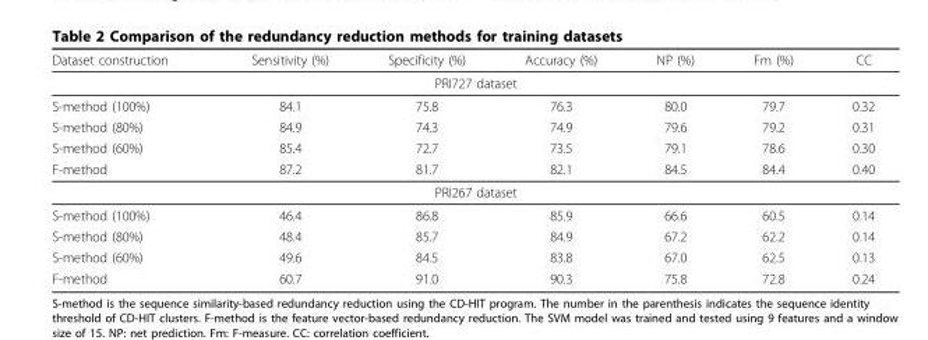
<table><thead><tr><td>Dataset construction</td><td>Sensitivity (%)</td><td>Specificity (%)</td><td>Accuracy (%)</td><td>NP (%)</td><td>Fm (%)</td><td>CC</td></tr></thead><tbody><tr><td colspan="7">PRI727 dataset</td></tr><tr><td>S-method (100%)</td><td>84.1</td><td>75.8</td><td>76.3</td><td>80.0</td><td>79.7</td><td>0.32</td></tr><tr><td>S-method (80%)</td><td>84.9</td><td>74.3</td><td>74.9</td><td>79.6</td><td>79.2</td><td>0.31</td></tr><tr><td>S-method (60%)</td><td>85.4</td><td>72.7</td><td>73.5</td><td>79.1</td><td>78.6</td><td>0.30</td></tr><tr><td>F-method</td><td>87.2</td><td>81.7</td><td>82.1</td><td>84.5</td><td>84.4</td><td>0.40</td></tr><tr><td colspan="7">PRI267 dataset</td></tr><tr><td>S-method (100%)</td><td>46.4</td><td>86.8</td><td>85.9</td><td>66.6</td><td>60.5</td><td>0.14</td></tr><tr><td>S-method (80%)</td><td>48.4</td><td>85.7</td><td>84.9</td><td>67.2</td><td>62.2</td><td>0.14</td></tr><tr><td>S-method (60%)</td><td>49.6</td><td>84.5</td><td>83.8</td><td>67.0</td><td>62.5</td><td>0.13</td></tr><tr><td>F-method</td><td>60.7</td><td>91.0</td><td>90.3</td><td>75.8</td><td>72.8</td><td>0.24</td></tr></tbody></table>